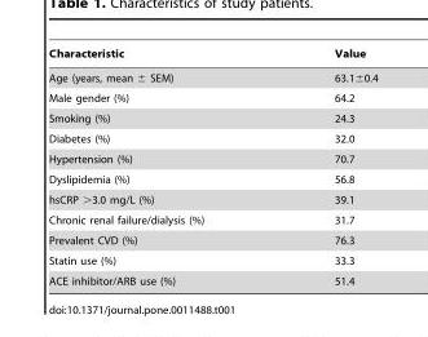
<table><thead><tr><td>Characteristic</td><td>Value</td></tr></thead><tbody><tr><td>Age (years, mean ± SEM)</td><td>63.1±0.4</td></tr><tr><td>Male gender (%)</td><td>64.2</td></tr><tr><td>Smoking (%)</td><td>24.3</td></tr><tr><td>Diabetes (%)</td><td>32.0</td></tr><tr><td>Hypertension (%)</td><td>70.7</td></tr><tr><td>Dyslipidemia (%)</td><td>56.8</td></tr><tr><td>hsCRP &gt;3.0 mg/L (%)</td><td>39.1</td></tr><tr><td>Chronic renal failure/dialysis (%)</td><td>31.7</td></tr><tr><td>Prevalent CVD (%)</td><td>76.3</td></tr><tr><td>Statin use (%)</td><td>33.3</td></tr><tr><td>ACE inhibitor/ARB use (%)</td><td>51.4</td></tr></tbody></table>